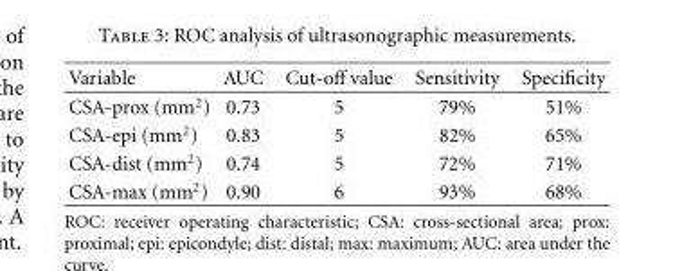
<table><thead><tr><td>Variable</td><td>AUC</td><td>Cut-off value</td><td>Sensitivity</td><td>Specificity</td></tr></thead><tbody><tr><td>CSA-prox (mm<sup>2</sup>)</td><td>0.73</td><td>5</td><td>79%</td><td>51%</td></tr><tr><td>CSA-epi (mm<sup>2</sup>)</td><td>0.83</td><td>5</td><td>82%</td><td>65%</td></tr><tr><td>CSA-dist (mm<sup>2</sup>)</td><td>0.74</td><td>5</td><td>72%</td><td>71%</td></tr><tr><td>CSA-max (mm<sup>2</sup>)</td><td>0.90</td><td>6</td><td>93%</td><td>68%</td></tr></tbody></table>